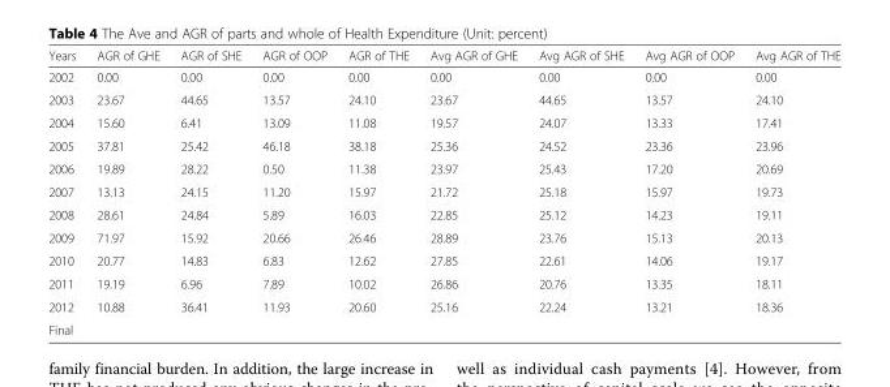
<table><thead><tr><td>Years</td><td>AGR of GHE</td><td>AGR of SHE</td><td>AGR of OOP</td><td>AGR of THE</td><td>Avg AGR of GHE</td><td>Avg AGR of SHE</td><td>Avg AGR of OOP</td><td>Avg AGR of THE</td></tr></thead><tbody><tr><td>2002</td><td>0.00</td><td>0.00</td><td>0.00</td><td>0.00</td><td>0.00</td><td>0.00</td><td>0.00</td><td>0.00</td></tr><tr><td>2003</td><td>23.67</td><td>44.65</td><td>13.57</td><td>24.10</td><td>23.67</td><td>44.65</td><td>13.57</td><td>24.10</td></tr><tr><td>2004</td><td>15.60</td><td>6.41</td><td>13.09</td><td>11.08</td><td>19.57</td><td>24.07</td><td>13.33</td><td>17.41</td></tr><tr><td>2005</td><td>37.81</td><td>25.42</td><td>46.18</td><td>38.18</td><td>25.36</td><td>24.52</td><td>23.36</td><td>23.96</td></tr><tr><td>2006</td><td>19.89</td><td>28.22</td><td>0.50</td><td>11.38</td><td>23.97</td><td>25.43</td><td>17.20</td><td>20.69</td></tr><tr><td>2007</td><td>13.13</td><td>24.15</td><td>11.20</td><td>15.97</td><td>21.72</td><td>25.18</td><td>15.97</td><td>19.73</td></tr><tr><td>2008</td><td>28.61</td><td>24.84</td><td>5.89</td><td>16.03</td><td>22.85</td><td>25.12</td><td>14.23</td><td>19.11</td></tr><tr><td>2009</td><td>71.97</td><td>15.92</td><td>20.66</td><td>26.46</td><td>28.89</td><td>23.76</td><td>15.13</td><td>20.13</td></tr><tr><td>2010</td><td>20.77</td><td>14.83</td><td>6.83</td><td>12.62</td><td>27.85</td><td>22.61</td><td>14.06</td><td>19.17</td></tr><tr><td>2011</td><td>19.19</td><td>6.96</td><td>7.89</td><td>10.02</td><td>26.86</td><td>20.76</td><td>13.35</td><td>18.11</td></tr><tr><td>2012</td><td>10.88</td><td>36.41</td><td>11.93</td><td>20.60</td><td>25.16</td><td>22.24</td><td>13.21</td><td>18.36</td></tr><tr><td>Final</td><td></td><td></td><td></td><td></td><td></td><td></td><td></td><td></td></tr></tbody></table>